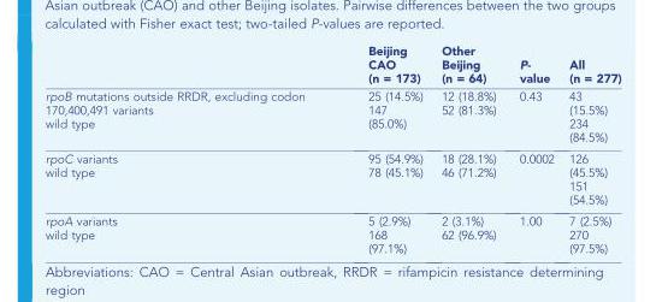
<table><thead><tr><td></td><td>Beijing CAO (n = 173)</td><td>Other Beijing (n = 64)</td><td>P- value</td><td>All (n = 277)</td></tr></thead><tbody><tr><td>rpoB mutations outside RRDR, excluding codon 170,400,491 variants wild type</td><td>25 (14.5%) 147 (85.0%)</td><td>12 (18.8%) 52 (81.3%)</td><td>0.43</td><td>43 (15.5%) 234 (84.5%)</td></tr><tr><td>rpoC variants wild type</td><td>95 (54.9%) 78 (45.1%)</td><td>18 (28.1%) 46 (71.2%)</td><td>0.0002</td><td>126 (45.5%) 151 (54.5%)</td></tr><tr><td>rpoA variants wild type</td><td>5 (2.9%) 168 (97.1%)</td><td>2 (3.1%) 62 (96.9%)</td><td>1.00</td><td>7 (2.5%) 270 (97.5%)</td></tr></tbody></table>